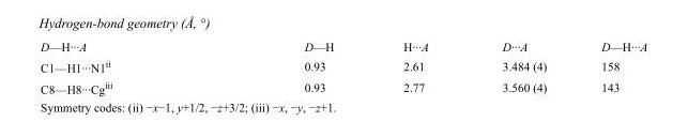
<table><tbody><tr><td>D—H···A</td><td>D—H</td><td>H···A</td><td>D···A</td><td>D—H···A</td></tr><tr><td>C1—H1···N1<sup>ii</sup></td><td>0.93</td><td>2.61</td><td>3.484 (4)</td><td>158</td></tr><tr><td>C8—H8···Cg<sup>iii</sup></td><td>0.93</td><td>2.77</td><td>3.560 (4)</td><td>143</td></tr></tbody></table>